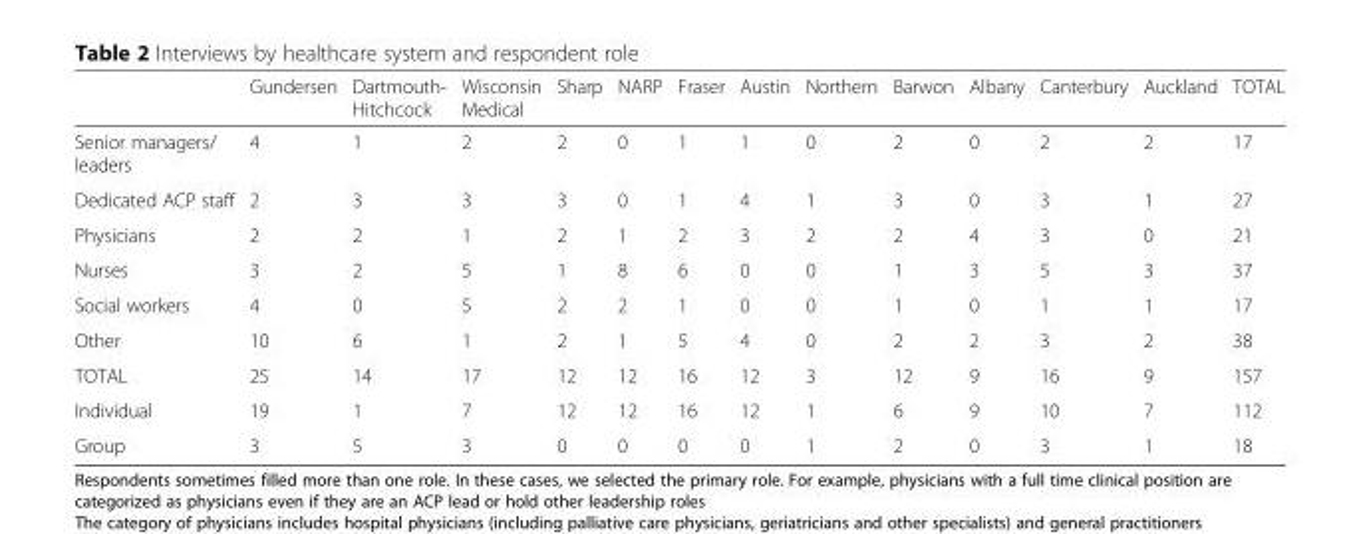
<table><thead><tr><td></td><td>Gundersen</td><td>Dartmouth- Hitchcock</td><td>Wisconsin Medical</td><td>Sharp</td><td>NARP</td><td>Fraser</td><td>Austin</td><td>Northern</td><td>Barwon</td><td>Albany</td><td>Canterbury</td><td>Auckland</td><td>TOTAL</td></tr></thead><tbody><tr><td>Senior managers/ leaders</td><td>4</td><td>1</td><td>2</td><td>2</td><td>0</td><td>1</td><td>1</td><td>0</td><td>2</td><td>0</td><td>2</td><td>2</td><td>17</td></tr><tr><td>Dedicated ACP staff</td><td>2</td><td>3</td><td>3</td><td>3</td><td>0</td><td>1</td><td>4</td><td>1</td><td>3</td><td>0</td><td>3</td><td>1</td><td>27</td></tr><tr><td>Physicians</td><td>2</td><td>2</td><td>1</td><td>2</td><td>1</td><td>2</td><td>3</td><td>2</td><td>2</td><td>4</td><td>3</td><td>0</td><td>21</td></tr><tr><td>Nurses</td><td>3</td><td>2</td><td>5</td><td>1</td><td>8</td><td>6</td><td>0</td><td>0</td><td>1</td><td>3</td><td>5</td><td>3</td><td>37</td></tr><tr><td>Social workers</td><td>4</td><td>0</td><td>5</td><td>2</td><td>2</td><td>1</td><td>0</td><td>0</td><td>1</td><td>0</td><td>1</td><td>1</td><td>17</td></tr><tr><td>Other</td><td>10</td><td>6</td><td>1</td><td>2</td><td>1</td><td>5</td><td>4</td><td>0</td><td>2</td><td>2</td><td>3</td><td>2</td><td>38</td></tr><tr><td>TOTAL</td><td>25</td><td>14</td><td>17</td><td>12</td><td>12</td><td>16</td><td>12</td><td>3</td><td>12</td><td>9</td><td>16</td><td>9</td><td>157</td></tr><tr><td>Individual</td><td>19</td><td>1</td><td>7</td><td>12</td><td>12</td><td>16</td><td>12</td><td>1</td><td>6</td><td>9</td><td>10</td><td>7</td><td>112</td></tr><tr><td>Group</td><td>3</td><td>5</td><td>3</td><td>0</td><td>0</td><td>0</td><td>0</td><td>1</td><td>2</td><td>0</td><td>3</td><td>1</td><td>18</td></tr></tbody></table>